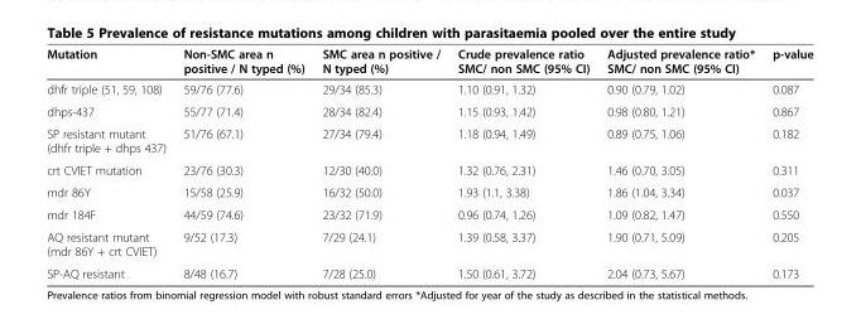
<table><thead><tr><td>Mutation</td><td>Non-SMC area n positive / N typed (%)</td><td>SMC area n positive / N typed (%)</td><td>Crude prevalence ratio SMC/ non SMC (95% CI)</td><td>Adjusted prevalence ratio* SMC/ non SMC (95% CI)</td><td>p-value</td></tr></thead><tbody><tr><td>dhfr triple (51, 59, 108)</td><td>59/76 (77.6)</td><td>29/34 (85.3)</td><td>1.10 (0.91, 1.32)</td><td>0.90 (0.79, 1.02)</td><td>0.087</td></tr><tr><td>dhps-437</td><td>55/77 (71.4)</td><td>28/34 (82.4)</td><td>1.15 (0.93, 1.42)</td><td>0.98 (0.80, 1.21)</td><td>0.867</td></tr><tr><td>SP resistant mutant (dhfr triple + dhps 437)</td><td>51/76 (67.1)</td><td>27/34 (79.4)</td><td>1.18 (0.94, 1.49)</td><td>0.89 (0.75, 1.06)</td><td>0.182</td></tr><tr><td>crt CVIET mutation</td><td>23/76 (30.3)</td><td>12/30 (40.0)</td><td>1.32 (0.76, 2.31)</td><td>1.46 (0.70, 3.05)</td><td>0.311</td></tr><tr><td>mdr 86Y</td><td>15/58 (25.9)</td><td>16/32 (50.0)</td><td>1.93 (1.1, 3.38)</td><td>1.86 (1.04, 3.34)</td><td>0.037</td></tr><tr><td>mdr 184F</td><td>44/59 (74.6)</td><td>23/32 (71.9)</td><td>0.96 (0.74, 1.26)</td><td>1.09 (0.82, 1.47)</td><td>0.550</td></tr><tr><td>AQ resistant mutant (mdr 86Y + crt CVIET)</td><td>9/52 (17.3)</td><td>7/29 (24.1)</td><td>1.39 (0.58, 3.37)</td><td>1.90 (0.71, 5.09)</td><td>0.205</td></tr><tr><td>SP-AQ resistant</td><td>8/48 (16.7)</td><td>7/28 (25.0)</td><td>1.50 (0.61, 3.72)</td><td>2.04 (0.73, 5.67)</td><td>0.173</td></tr></tbody></table>